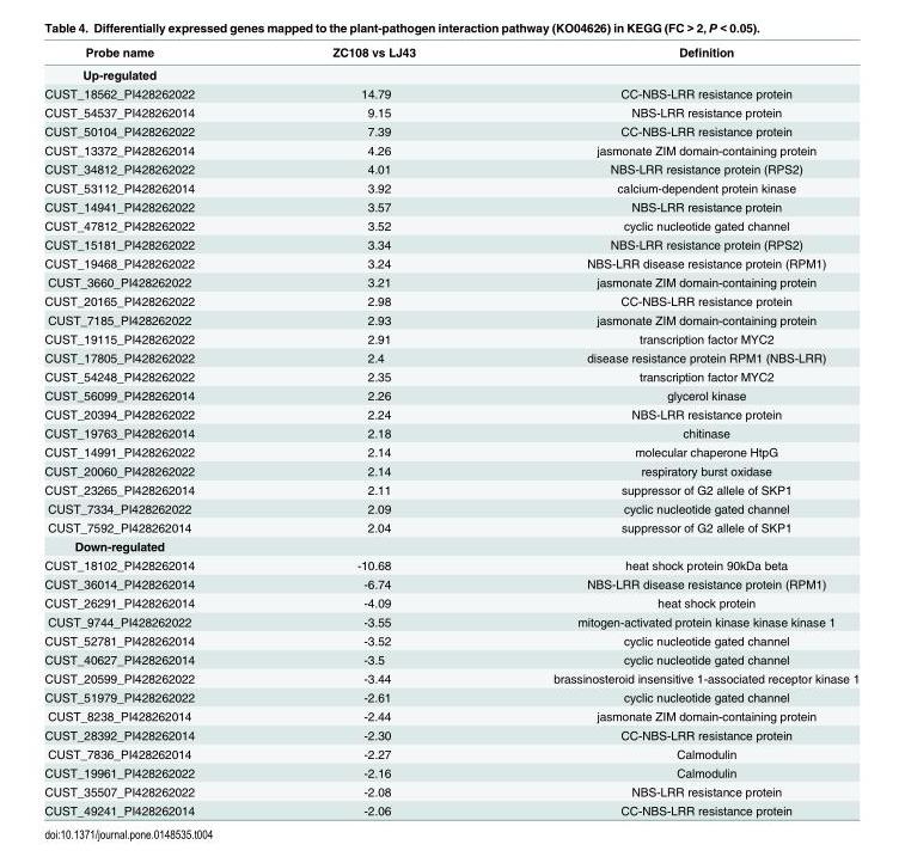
<table><thead><tr><td>Probe name</td><td>ZC108 vs LJ43</td><td>Definition</td></tr></thead><tbody><tr><td colspan="3">Up-regulated</td></tr><tr><td>CUST_18562_PI428262022</td><td>14.79</td><td>CC-NBS-LRR resistance protein</td></tr><tr><td>CUST_54537_PI428262014</td><td>9.15</td><td>NBS-LRR resistance protein</td></tr><tr><td>CUST_50104_PI428262022</td><td>7.39</td><td>CC-NBS-LRR resistance protein</td></tr><tr><td>CUST_13372_PI428262014</td><td>4.26</td><td>jasmonate ZIM domain-containing protein</td></tr><tr><td>CUST_34812_PI428262022</td><td>4.01</td><td>NBS-LRR resistance protein (RPS2)</td></tr><tr><td>CUST_53112_PI428262014</td><td>3.92</td><td>calcium-dependent protein kinase</td></tr><tr><td>CUST_14941_PI428262022</td><td>3.57</td><td>NBS-LRR resistance protein</td></tr><tr><td>CUST_47812_PI428262022</td><td>3.52</td><td>cyclic nucleotide gated channel</td></tr><tr><td>CUST_15181_PI428262022</td><td>3.34</td><td>NBS-LRR resistance protein (RPS2)</td></tr><tr><td>CUST_19468_PI428262022</td><td>3.24</td><td>NBS-LRR disease resistance protein (RPM1)</td></tr><tr><td>CUST_3660_PI428262022</td><td>3.21</td><td>jasmonate ZIM domain-containing protein</td></tr><tr><td>CUST_20165_PI428262022</td><td>2.98</td><td>CC-NBS-LRR resistance protein</td></tr><tr><td>CUST_7185_PI428262022</td><td>2.93</td><td>jasmonate ZIM domain-containing protein</td></tr><tr><td>CUST_19115_PI428262022</td><td>2.91</td><td>transcription factor MYC2</td></tr><tr><td>CUST_17805_PI428262022</td><td>2.4</td><td>disease resistance protein RPM1 (NBS-LRR)</td></tr><tr><td>CUST_54248_PI428262022</td><td>2.35</td><td>transcription factor MYC2</td></tr><tr><td>CUST_56099_PI428262014</td><td>2.26</td><td>glycerol kinase</td></tr><tr><td>CUST_20394_PI428262022</td><td>2.24</td><td>NBS-LRR resistance protein</td></tr><tr><td>CUST_19763_PI428262014</td><td>2.18</td><td>chitinase</td></tr><tr><td>CUST_14991_PI428262022</td><td>2.14</td><td>molecular chaperone HtpG</td></tr><tr><td>CUST_20060_PI428262022</td><td>2.14</td><td>respiratory burst oxidase</td></tr><tr><td>CUST_23265_PI428262014</td><td>2.11</td><td>suppressor of G2 allele of SKP1</td></tr><tr><td>CUST_7334_PI428262022</td><td>2.09</td><td>cyclic nucleotide gated channel</td></tr><tr><td>CUST_7592_PI428262014</td><td>2.04</td><td>suppressor of G2 allele of SKP1</td></tr><tr><td colspan="3">Down-regulated</td></tr><tr><td>CUST_18102_PI428262014</td><td>-10.68</td><td>heat shock protein 90kDa beta</td></tr><tr><td>CUST_36014_PI428262014</td><td>-6.74</td><td>NBS-LRR disease resistance protein (RPM1)</td></tr><tr><td>CUST_26291_PI428262014</td><td>-4.09</td><td>heat shock protein</td></tr><tr><td>CUST_9744_PI428262022</td><td>-3.55</td><td>mitogen-activated protein kinase kinase kinase 1</td></tr><tr><td>CUST_52781_PI428262014</td><td>-3.52</td><td>cyclic nucleotide gated channel</td></tr><tr><td>CUST_40627_PI428262014</td><td>-3.5</td><td>cyclic nucleotide gated channel</td></tr><tr><td>CUST_20599_PI428262022</td><td>-3.44</td><td>brassinosteroid insensitive 1-associated receptor kinase 1</td></tr><tr><td>CUST_51979_PI428262022</td><td>-2.61</td><td>cyclic nucleotide gated channel</td></tr><tr><td>CUST_8238_PI428262014</td><td>-2.44</td><td>jasmonate ZIM domain-containing protein</td></tr><tr><td>CUST_28392_PI428262014</td><td>-2.30</td><td>CC-NBS-LRR resistance protein</td></tr><tr><td>CUST_7836_PI428262014</td><td>-2.27</td><td>Calmodulin</td></tr><tr><td>CUST_19961_PI428262022</td><td>-2.16</td><td>Calmodulin</td></tr><tr><td>CUST_35507_PI428262022</td><td>-2.08</td><td>NBS-LRR resistance protein</td></tr><tr><td>CUST_49241_PI428262014</td><td>-2.06</td><td>CC-NBS-LRR resistance protein</td></tr></tbody></table>